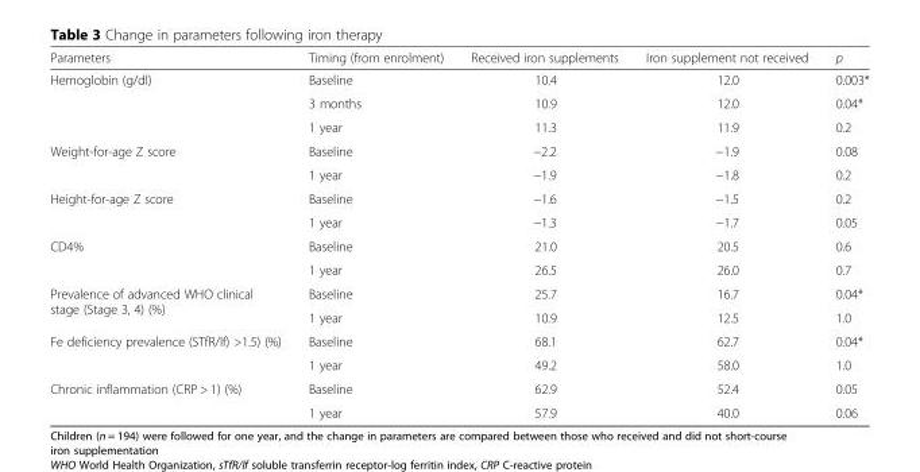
<table><thead><tr><td>Parameters</td><td>Timing (from enrolment)</td><td>Received iron supplements</td><td>Iron supplement not received</td><td>p</td></tr></thead><tbody><tr><td rowspan="3">Hemoglobin (g/dl)</td><td>Baseline</td><td>10.4</td><td>12.0</td><td>0.003*</td></tr><tr><td>3 months</td><td>10.9</td><td>12.0</td><td>0.04*</td></tr><tr><td>1 year</td><td>11.3</td><td>11.9</td><td>0.2</td></tr><tr><td rowspan="2">Weight-for-age Z score</td><td>Baseline</td><td>−2.2</td><td>−1.9</td><td>0.08</td></tr><tr><td>1 year</td><td>−1.9</td><td>−1.8</td><td>0.2</td></tr><tr><td rowspan="2">Height-for-age Z score</td><td>Baseline</td><td>−1.6</td><td>−1.5</td><td>0.2</td></tr><tr><td>1 year</td><td>−1.3</td><td>−1.7</td><td>0.05</td></tr><tr><td rowspan="2">CD4%</td><td>Baseline</td><td>21.0</td><td>20.5</td><td>0.6</td></tr><tr><td>1 year</td><td>26.5</td><td>26.0</td><td>0.7</td></tr><tr><td rowspan="2">Prevalence of advanced WHO clinical stage (Stage 3, 4) (%)</td><td>Baseline</td><td>25.7</td><td>16.7</td><td>0.04*</td></tr><tr><td>1 year</td><td>10.9</td><td>12.5</td><td>1.0</td></tr><tr><td rowspan="2">Fe deficiency prevalence (STfR/lf) &gt;1.5) (%)</td><td>Baseline</td><td>68.1</td><td>62.7</td><td>0.04*</td></tr><tr><td>1 year</td><td>49.2</td><td>58.0</td><td>1.0</td></tr><tr><td rowspan="2">Chronic inflammation (CRP &gt; 1) (%)</td><td>Baseline</td><td>62.9</td><td>52.4</td><td>0.05</td></tr><tr><td>1 year</td><td>57.9</td><td>40.0</td><td>0.06</td></tr></tbody></table>